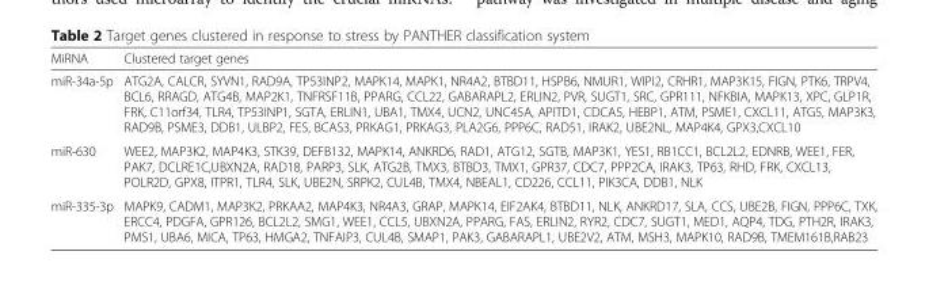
<table><thead><tr><td>MiRNA</td><td>Clustered target genes</td></tr></thead><tbody><tr><td>miR-34a-5p</td><td>ATG2A, CALCR, SYVN1, RAD9A, TP53INP2, MAPK14, MAPK1, NR4A2, BTBD11, HSPB6, NMUR1, WIPI2, CRHR1, MAP3K15, FIGN, PTK6, TRPV4, BCL6, RRAGD, ATG4B, MAP2K1, TNFRSF11B, PPARG, CCL22, GABARAPL2, ERLIN2, PVR, SUGT1, SRC, GPR111, NFKBIA, MAPK13, XPC, GLP1R, FRK, C11orf34, TLR4, TP53INP1, SGTA, ERLIN1, UBA1, TMX4, UCN2, UNC45A, APITD1, CDCA5, HEBP1, ATM, PSME1, CXCL11, ATG5, MAP3K3, RAD9B, PSME3, DDB1, ULBP2, FES, BCAS3, PRKAG1, PRKAG3, PLA2G6, PPP6C, RAD51, IRAK2, UBE2NL, MAP4K4, GPX3,CXCL10</td></tr><tr><td>miR-630</td><td>WEE2, MAP3K2, MAP4K3, STK39, DEFB132, MAPK14, ANKRD6, RAD1, ATG12, SGTB, MAP3K1, YES1, RB1CC1, BCL2L2, EDNRB, WEE1, FER, PAK7, DCLRE1C,UBXN2A, RAD18, PARP3, SLK, ATG2B, TMX3, BTBD3, TMX1, GPR37, CDC7, PPP2CA, IRAK3, TP63, RHD, FRK, CXCL13, POLR2D, GPX8, ITPR1, TLR4, SLK, UBE2N, SRPK2, CUL4B, TMX4, NBEAL1, CD226, CCL11, PIK3CA, DDB1, NLK</td></tr><tr><td>miR-335-3p</td><td>MAPK9, CADM1, MAP3K2, PRKAA2, MAP4K3, NR4A3, GRAP, MAPK14, EIF2AK4, BTBD11, NLK, ANKRD17, SLA, CCS, UBE2B, FIGN, PPP6C, TXK, ERCC4, PDGFA, GPR126, BCL2L2, SMG1, WEE1, CCL5, UBXN2A, PPARG, FAS, ERLIN2, RYR2, CDC7, SUGT1, MED1, AQP4, TDG, PTH2R, IRAK3, PMS1, UBA6, MICA, TP63, HMGA2, TNFAIP3, CUL4B, SMAP1, PAK3, GABARAPL1, UBE2V2, ATM, MSH3, MAPK10, RAD9B, TMEM161B,RAB23</td></tr></tbody></table>